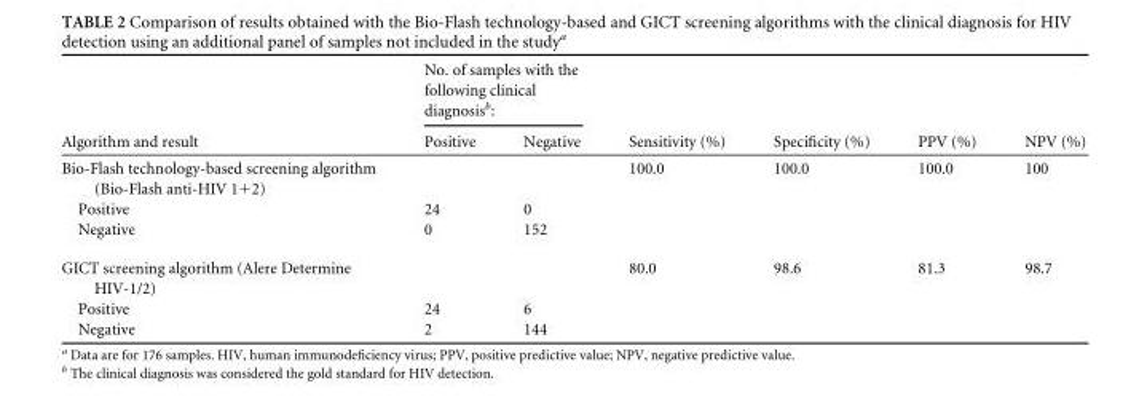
<table><thead><tr><td rowspan="2">Algorithm and result</td><td colspan="2">No. of samples with the following clinical diagnosis<sup>b</sup>:</td><td rowspan="2">Sensitivity (%)</td><td rowspan="2">Specificity (%)</td><td rowspan="2">PPV (%)</td><td rowspan="2">NPV (%)</td></tr><tr><td>Positive</td><td>Negative</td></tr></thead><tbody><tr><td>Bio-Flash technology-based screening algorithm (Bio-Flash anti-HIV 1+2)</td><td></td><td></td><td>100.0</td><td>100.0</td><td>100.0</td><td>100</td></tr><tr><td>Positive</td><td>24</td><td>0</td><td></td><td></td><td></td><td></td></tr><tr><td>Negative</td><td>0</td><td>152</td><td></td><td></td><td></td><td></td></tr><tr><td>GICT screening algorithm (Alere Determine HIV-1/2)</td><td></td><td></td><td>80.0</td><td>98.6</td><td>81.3</td><td>98.7</td></tr><tr><td>Positive</td><td>24</td><td>6</td><td></td><td></td><td></td><td></td></tr><tr><td>Negative</td><td>2</td><td>144</td><td></td><td></td><td></td><td></td></tr></tbody></table>